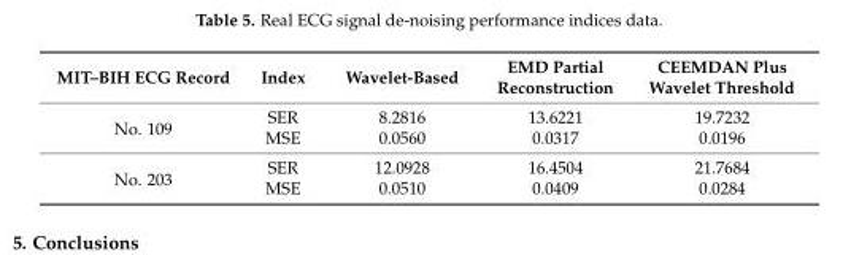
<table><thead><tr><td>MIT–BIH ECG Record</td><td>Index</td><td>Wavelet-Based</td><td>EMD Partial Reconstruction</td><td>CEEMDAN Plus Wavelet Threshold</td></tr></thead><tbody><tr><td rowspan="2">No. 109</td><td>SER</td><td>8.2816</td><td>13.6221</td><td>19.7232</td></tr><tr><td>MSE</td><td>0.0560</td><td>0.0317</td><td>0.0196</td></tr><tr><td rowspan="2">No. 203</td><td>SER</td><td>12.0928</td><td>16.4504</td><td>21.7684</td></tr><tr><td>MSE</td><td>0.0510</td><td>0.0409</td><td>0.0284</td></tr></tbody></table>